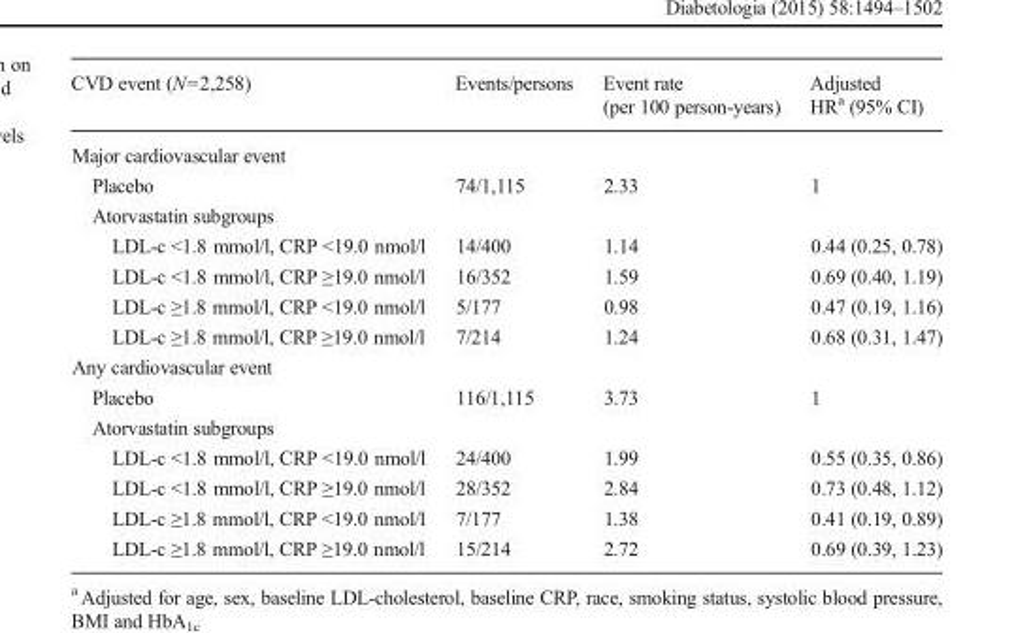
<table><thead><tr><td>CVD event (N=2,258)</td><td>Events/persons</td><td>Event rate (per 100 person-years)</td><td>Adjusted HR<sup>a</sup> (95% CI)</td></tr></thead><tbody><tr><td colspan="4">Major cardiovascular event</td></tr><tr><td>Placebo</td><td>74/1,115</td><td>2.33</td><td>1</td></tr><tr><td colspan="4">Atorvastatin subgroups</td></tr><tr><td>LDL-c &lt;1.8 mmol/l, CRP &lt;19.0 nmol/l</td><td>14/400</td><td>1.14</td><td>0.44 (0.25, 0.78)</td></tr><tr><td>LDL-c &lt;1.8 mmol/l, CRP ≥19.0 nmol/l</td><td>16/352</td><td>1.59</td><td>0.69 (0.40, 1.19)</td></tr><tr><td>LDL-c ≥1.8 mmol/l, CRP &lt;19.0 nmol/l</td><td>5/177</td><td>0.98</td><td>0.47 (0.19, 1.16)</td></tr><tr><td>LDL-c ≥1.8 mmol/l, CRP ≥19.0 nmol/l</td><td>7/214</td><td>1.24</td><td>0.68 (0.31, 1.47)</td></tr><tr><td colspan="4">Any cardiovascular event</td></tr><tr><td>Placebo</td><td>116/1,115</td><td>3.73</td><td>1</td></tr><tr><td colspan="4">Atorvastatin subgroups</td></tr><tr><td>LDL-c &lt;1.8 mmol/l, CRP &lt;19.0 nmol/l</td><td>24/400</td><td>1.99</td><td>0.55 (0.35, 0.86)</td></tr><tr><td>LDL-c &lt;1.8 mmol/l, CRP ≥19.0 nmol/l</td><td>28/352</td><td>2.84</td><td>0.73 (0.48, 1.12)</td></tr><tr><td>LDL-c ≥1.8 mmol/l, CRP &lt;19.0 nmol/l</td><td>7/177</td><td>1.38</td><td>0.41 (0.19, 0.89)</td></tr><tr><td>LDL-c ≥1.8 mmol/l, CRP ≥19.0 nmol/l</td><td>15/214</td><td>2.72</td><td>0.69 (0.39, 1.23)</td></tr></tbody></table>